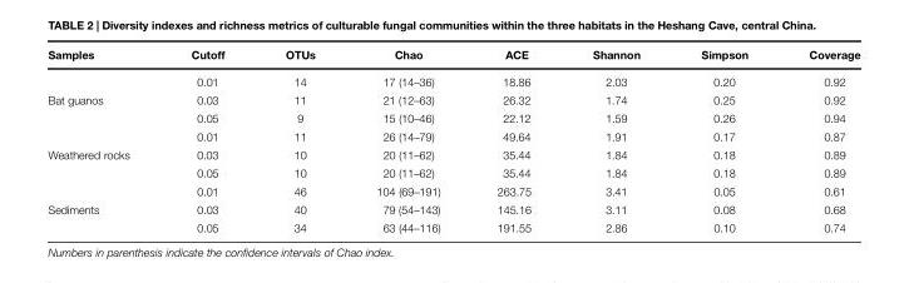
<table><thead><tr><td>Samples</td><td>Cutoff</td><td>OTUs</td><td>Chao</td><td>ACE</td><td>Shannon</td><td>Simpson</td><td>Coverage</td></tr></thead><tbody><tr><td></td><td>0.01</td><td>14</td><td>17 (14–36)</td><td>18.86</td><td>2.03</td><td>0.20</td><td>0.92</td></tr><tr><td rowspan="3">Bat guanos</td><td>0.03</td><td>11</td><td>21 (12–63)</td><td>26.32</td><td>1.74</td><td>0.25</td><td>0.92</td></tr><tr><td>0.05</td><td>9</td><td>15 (10–46)</td><td>22.12</td><td>1.59</td><td>0.26</td><td>0.94</td></tr><tr><td>0.01</td><td>11</td><td>26 (14–79)</td><td>49.64</td><td>1.91</td><td>0.17</td><td>0.87</td></tr><tr><td rowspan="3">Weathered rocks</td><td>0.03</td><td>10</td><td>20 (11–62)</td><td>35.44</td><td>1.84</td><td>0.18</td><td>0.89</td></tr><tr><td>0.05</td><td>10</td><td>20 (11–62)</td><td>35.44</td><td>1.84</td><td>0.18</td><td>0.89</td></tr><tr><td>0.01</td><td>46</td><td>104 (69–191)</td><td>263.75</td><td>3.41</td><td>0.05</td><td>0.61</td></tr><tr><td rowspan="2">Sediments</td><td>0.03</td><td>40</td><td>79 (54–143)</td><td>145.16</td><td>3.11</td><td>0.08</td><td>0.68</td></tr><tr><td>0.05</td><td>34</td><td>63 (44–116)</td><td>191.55</td><td>2.86</td><td>0.10</td><td>0.74</td></tr></tbody></table>